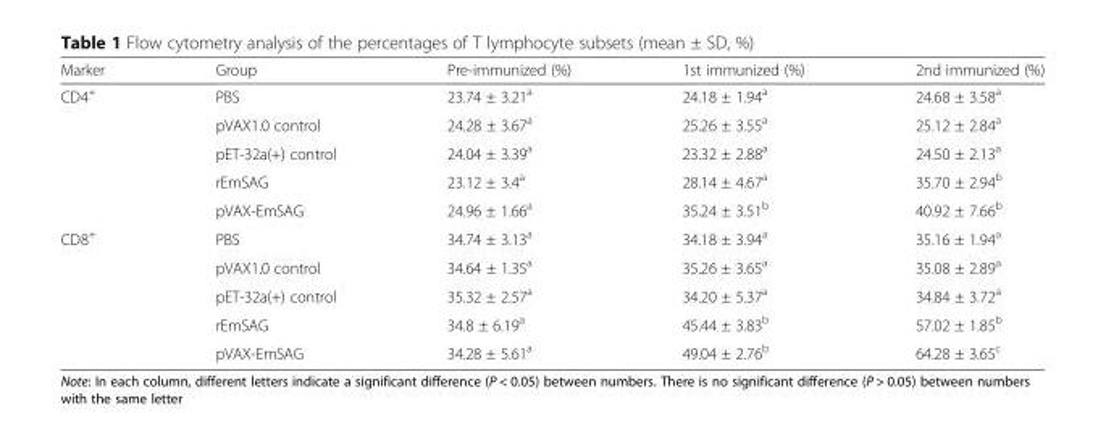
<table><thead><tr><td>Marker</td><td>Group</td><td>Pre-immunized (%)</td><td>1st immunized (%)</td><td>2nd immunized (%)</td></tr></thead><tbody><tr><td rowspan="5">CD4<sup>+</sup></td><td>PBS</td><td>23.74 ± 3.21<sup>a</sup></td><td>24.18 ± 1.94<sup>a</sup></td><td>24.68 ± 3.58<sup>a</sup></td></tr><tr><td>pVAX1.0 control</td><td>24.28 ± 3.67<sup>a</sup></td><td>25.26 ± 3.55<sup>a</sup></td><td>25.12 ± 2.84<sup>a</sup></td></tr><tr><td>pET-32a(+) control</td><td>24.04 ± 3.39<sup>a</sup></td><td>23.32 ± 2.88<sup>a</sup></td><td>24.50 ± 2.13<sup>a</sup></td></tr><tr><td>rEmSAG</td><td>23.12 ± 3.4<sup>a</sup></td><td>28.14 ± 4.67<sup>a</sup></td><td>35.70 ± 2.94<sup>b</sup></td></tr><tr><td>pVAX-EmSAG</td><td>24.96 ± 1.66<sup>a</sup></td><td>35.24 ± 3.51<sup>b</sup></td><td>40.92 ± 7.66<sup>b</sup></td></tr><tr><td rowspan="5">CD8<sup>+</sup></td><td>PBS</td><td>34.74 ± 3.13<sup>a</sup></td><td>34.18 ± 3.94<sup>a</sup></td><td>35.16 ± 1.94<sup>a</sup></td></tr><tr><td>pVAX1.0 control</td><td>34.64 ± 1.35<sup>a</sup></td><td>35.26 ± 3.65<sup>a</sup></td><td>35.08 ± 2.89<sup>a</sup></td></tr><tr><td>pET-32a(+) control</td><td>35.32 ± 2.57<sup>a</sup></td><td>34.20 ± 5.37<sup>a</sup></td><td>34.84 ± 3.72<sup>a</sup></td></tr><tr><td>rEmSAG</td><td>34.8 ± 6.19<sup>a</sup></td><td>45.44 ± 3.83<sup>b</sup></td><td>57.02 ± 1.85<sup>b</sup></td></tr><tr><td>pVAX-EmSAG</td><td>34.28 ± 5.61<sup>a</sup></td><td>49.04 ± 2.76<sup>b</sup></td><td>64.28 ± 3.65<sup>c</sup></td></tr></tbody></table>